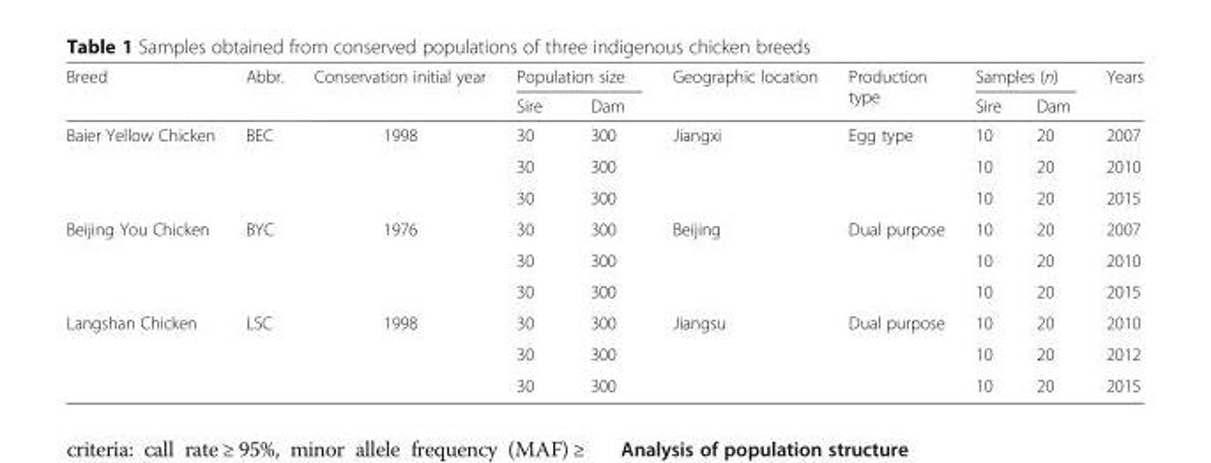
<table><thead><tr><td rowspan="2">Breed</td><td rowspan="2">Abbr.</td><td rowspan="2">Conservation initial year</td><td colspan="2">Population size</td><td rowspan="2">Geographic location</td><td rowspan="2">Production type</td><td colspan="2">Samples (n)</td><td rowspan="2">Years</td></tr><tr><td>Sire</td><td>Dam</td><td>Sire</td><td>Dam</td></tr></thead><tbody><tr><td rowspan="3">Baier Yellow Chicken</td><td rowspan="3">BEC</td><td rowspan="3">1998</td><td>30</td><td>300</td><td rowspan="3">Jiangxi</td><td rowspan="3">Egg type</td><td>10</td><td>20</td><td>2007</td></tr><tr><td>30</td><td>300</td><td>10</td><td>20</td><td>2010</td></tr><tr><td>30</td><td>300</td><td>10</td><td>20</td><td>2015</td></tr><tr><td rowspan="3">Beijing You Chicken</td><td rowspan="3">BYC</td><td rowspan="3">1976</td><td>30</td><td>300</td><td rowspan="3">Beijing</td><td rowspan="3">Dual purpose</td><td>10</td><td>20</td><td>2007</td></tr><tr><td>30</td><td>300</td><td>10</td><td>20</td><td>2010</td></tr><tr><td>30</td><td>300</td><td>10</td><td>20</td><td>2015</td></tr><tr><td rowspan="3">Langshan Chicken</td><td rowspan="3">LSC</td><td rowspan="3">1998</td><td>30</td><td>300</td><td rowspan="3">Jiangsu</td><td rowspan="3">Dual purpose</td><td>10</td><td>20</td><td>2010</td></tr><tr><td>30</td><td>300</td><td>10</td><td>20</td><td>2012</td></tr><tr><td>30</td><td>300</td><td>10</td><td>20</td><td>2015</td></tr></tbody></table>